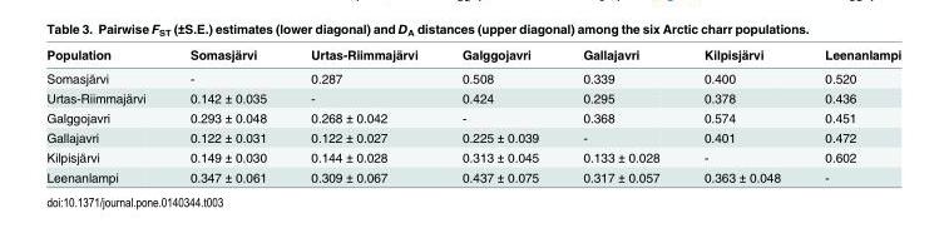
<table><thead><tr><td>Population</td><td>Somasjärvi</td><td>Urtas-Riimmajärvi</td><td>Galggojavri</td><td>Gallajavri</td><td>Kilpisjärvi</td><td>Leenanlampi</td></tr></thead><tbody><tr><td>Somasjärvi</td><td>-</td><td>0.287</td><td>0.508</td><td>0.339</td><td>0.400</td><td>0.520</td></tr><tr><td>Urtas-Riimmajärvi</td><td>0.142 ± 0.035</td><td>-</td><td>0.424</td><td>0.295</td><td>0.378</td><td>0.436</td></tr><tr><td>Galggojavri</td><td>0.293 ± 0.048</td><td>0.268 ± 0.042</td><td>-</td><td>0.368</td><td>0.574</td><td>0.451</td></tr><tr><td>Gallajavri</td><td>0.122 ± 0.031</td><td>0.122 ± 0.027</td><td>0.225 ± 0.039</td><td>-</td><td>0.401</td><td>0.472</td></tr><tr><td>Kilpisjärvi</td><td>0.149 ± 0.030</td><td>0.144 ± 0.028</td><td>0.313 ± 0.045</td><td>0.133 ± 0.028</td><td>-</td><td>0.602</td></tr><tr><td>Leenanlampi</td><td>0.347 ± 0.061</td><td>0.309 ± 0.067</td><td>0.437 ± 0.075</td><td>0.317 ± 0.057</td><td>0.363 ± 0.048</td><td>-</td></tr></tbody></table>